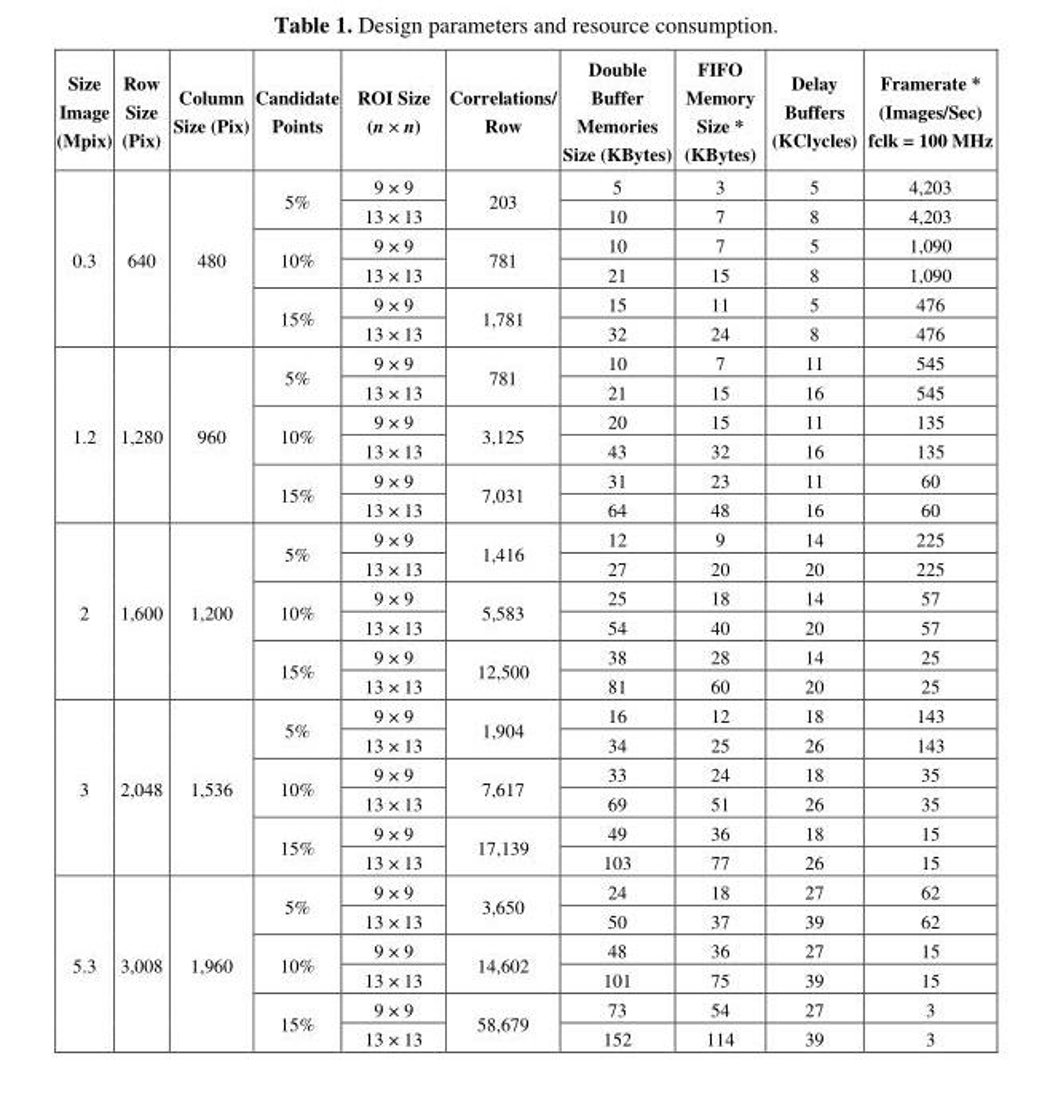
<table><thead><tr><td>Size Image (Mpix)</td><td>Row Size (Pix)</td><td>Column Size (Pix)</td><td>Candidate Points</td><td>ROI Size (n × n)</td><td>Correlations/ Row</td><td>Double Buffer Memories Size (KBytes)</td><td>FIFO Memory Size * (KBytes)</td><td>Delay Buffers (KClycles)</td><td>Framerate * (Images/Sec) fclk = 100 MHz</td></tr></thead><tbody><tr><td rowspan="6">0.3</td><td rowspan="6">640</td><td rowspan="6">480</td><td rowspan="2">5%</td><td>9 × 9</td><td rowspan="2">203</td><td>5</td><td>3</td><td>5</td><td>4,203</td></tr><tr><td>13 × 13</td><td>10</td><td>7</td><td>8</td><td>4,203</td></tr><tr><td rowspan="2">10%</td><td>9 × 9</td><td rowspan="2">781</td><td>10</td><td>7</td><td>5</td><td>1,090</td></tr><tr><td>13 × 13</td><td>21</td><td>15</td><td>8</td><td>1,090</td></tr><tr><td rowspan="2">15%</td><td>9 × 9</td><td rowspan="2">1,781</td><td>15</td><td>11</td><td>5</td><td>476</td></tr><tr><td>13 × 13</td><td>32</td><td>24</td><td>8</td><td>476</td></tr><tr><td rowspan="6">1.2</td><td rowspan="6">1,280</td><td rowspan="6">960</td><td rowspan="2">5%</td><td>9 × 9</td><td rowspan="2">781</td><td>10</td><td>7</td><td>11</td><td>545</td></tr><tr><td>13 × 13</td><td>21</td><td>15</td><td>16</td><td>545</td></tr><tr><td rowspan="2">10%</td><td>9 × 9</td><td rowspan="2">3,125</td><td>20</td><td>15</td><td>11</td><td>135</td></tr><tr><td>13 × 13</td><td>43</td><td>32</td><td>16</td><td>135</td></tr><tr><td rowspan="2">15%</td><td>9 × 9</td><td rowspan="2">7,031</td><td>31</td><td>23</td><td>11</td><td>60</td></tr><tr><td>13 × 13</td><td>64</td><td>48</td><td>16</td><td>60</td></tr><tr><td rowspan="6">2</td><td rowspan="6">1,600</td><td rowspan="6">1,200</td><td rowspan="2">5%</td><td>9 × 9</td><td rowspan="2">1,416</td><td>12</td><td>9</td><td>14</td><td>225</td></tr><tr><td>13 × 13</td><td>27</td><td>20</td><td>20</td><td>225</td></tr><tr><td rowspan="2">10%</td><td>9 × 9</td><td rowspan="2">5,583</td><td>25</td><td>18</td><td>14</td><td>57</td></tr><tr><td>13 × 13</td><td>54</td><td>40</td><td>20</td><td>57</td></tr><tr><td rowspan="2">15%</td><td>9 × 9</td><td rowspan="2">12,500</td><td>38</td><td>28</td><td>14</td><td>25</td></tr><tr><td>13 × 13</td><td>81</td><td>60</td><td>20</td><td>25</td></tr><tr><td rowspan="6">3</td><td rowspan="6">2,048</td><td rowspan="6">1,536</td><td rowspan="2">5%</td><td>9 × 9</td><td rowspan="2">1,904</td><td>16</td><td>12</td><td>18</td><td>143</td></tr><tr><td>13 × 13</td><td>34</td><td>25</td><td>26</td><td>143</td></tr><tr><td rowspan="2">10%</td><td>9 × 9</td><td rowspan="2">7,617</td><td>33</td><td>24</td><td>18</td><td>35</td></tr><tr><td>13 × 13</td><td>69</td><td>51</td><td>26</td><td>35</td></tr><tr><td rowspan="2">15%</td><td>9 × 9</td><td rowspan="2">17,139</td><td>49</td><td>36</td><td>18</td><td>15</td></tr><tr><td>13 × 13</td><td>103</td><td>77</td><td>26</td><td>15</td></tr><tr><td rowspan="6">5.3</td><td rowspan="6">3,008</td><td rowspan="6">1,960</td><td rowspan="2">5%</td><td>9 × 9</td><td rowspan="2">3,650</td><td>24</td><td>18</td><td>27</td><td>62</td></tr><tr><td>13 × 13</td><td>50</td><td>37</td><td>39</td><td>62</td></tr><tr><td rowspan="2">10%</td><td>9 × 9</td><td rowspan="2">14,602</td><td>48</td><td>36</td><td>27</td><td>15</td></tr><tr><td>13 × 13</td><td>101</td><td>75</td><td>39</td><td>15</td></tr><tr><td rowspan="2">15%</td><td>9 × 9</td><td rowspan="2">58,679</td><td>73</td><td>54</td><td>27</td><td>3</td></tr><tr><td>13 × 13</td><td>152</td><td>114</td><td>39</td><td>3</td></tr></tbody></table>